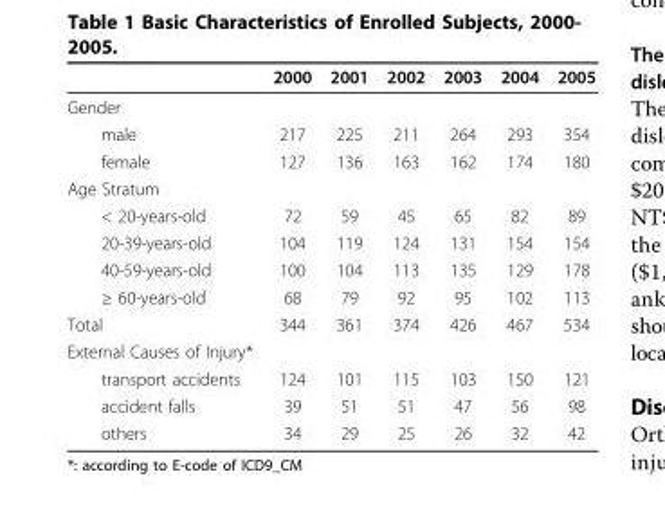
<table><thead><tr><td></td><td>2000</td><td>2001</td><td>2002</td><td>2003</td><td>2004</td><td>2005</td></tr></thead><tbody><tr><td colspan="7">Gender</td></tr><tr><td>male</td><td>217</td><td>225</td><td>211</td><td>264</td><td>293</td><td>354</td></tr><tr><td>female</td><td>127</td><td>136</td><td>163</td><td>162</td><td>174</td><td>180</td></tr><tr><td colspan="7">Age Stratum</td></tr><tr><td>&lt; 20-years-old</td><td>72</td><td>59</td><td>45</td><td>65</td><td>82</td><td>89</td></tr><tr><td>20-39-years-old</td><td>104</td><td>119</td><td>124</td><td>131</td><td>154</td><td>154</td></tr><tr><td>40-59-years-old</td><td>100</td><td>104</td><td>113</td><td>135</td><td>129</td><td>178</td></tr><tr><td>≥ 60-years-old</td><td>68</td><td>79</td><td>92</td><td>95</td><td>102</td><td>113</td></tr><tr><td>Total</td><td>344</td><td>361</td><td>374</td><td>426</td><td>467</td><td>534</td></tr><tr><td colspan="7">External Causes of Injury*</td></tr><tr><td>transport accidents</td><td>124</td><td>101</td><td>115</td><td>103</td><td>150</td><td>121</td></tr><tr><td>accident falls</td><td>39</td><td>51</td><td>51</td><td>47</td><td>56</td><td>98</td></tr><tr><td>others</td><td>34</td><td>29</td><td>25</td><td>26</td><td>32</td><td>42</td></tr></tbody></table>